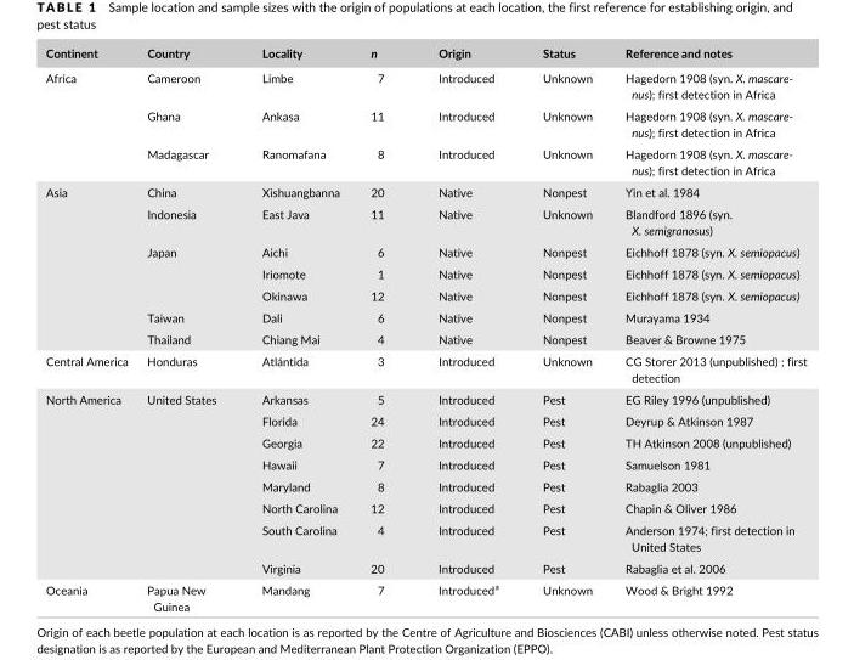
<table><thead><tr><td>Continent</td><td>Country</td><td>Locality</td><td>n</td><td>Origin</td><td>Status</td><td>Reference and notes</td></tr></thead><tbody><tr><td rowspan="3">Africa</td><td>Cameroon</td><td>Limbe</td><td>7</td><td>Introduced</td><td>Unknown</td><td>Hagedorn 1908 (syn. X. mascare- nus); first detection in Africa</td></tr><tr><td>Ghana</td><td>Ankasa</td><td>11</td><td>Introduced</td><td>Unknown</td><td>Hagedorn 1908 (syn. X. mascare- nus); first detection in Africa</td></tr><tr><td>Madagascar</td><td>Ranomafana</td><td>8</td><td>Introduced</td><td>Unknown</td><td>Hagedorn 1908 (syn. X. mascare- nus); first detection in Africa</td></tr><tr><td rowspan="7">Asia</td><td>China</td><td>Xishuangbanna</td><td>20</td><td>Native</td><td>Nonpest</td><td>Yin et al. 1984</td></tr><tr><td>Indonesia</td><td>East Java</td><td>11</td><td>Native</td><td>Unknown</td><td>Blandford 1896 (syn. X. semigranosus)</td></tr><tr><td rowspan="3">Japan</td><td>Aichi</td><td>6</td><td>Native</td><td>Nonpest</td><td>Eichhoff 1878 (syn. X. semiopacus)</td></tr><tr><td>Iriomote</td><td>1</td><td>Native</td><td>Nonpest</td><td>Eichhoff 1878 (syn. X. semiopacus)</td></tr><tr><td>Okinawa</td><td>12</td><td>Native</td><td>Nonpest</td><td>Eichhoff 1878 (syn. X. semiopacus)</td></tr><tr><td>Taiwan</td><td>Dali</td><td>6</td><td>Native</td><td>Nonpest</td><td>Murayama 1934</td></tr><tr><td>Thailand</td><td>Chiang Mai</td><td>4</td><td>Native</td><td>Nonpest</td><td>Beaver &amp; Browne 1975</td></tr><tr><td>Central America</td><td>Honduras</td><td>Atlántida</td><td>3</td><td>Introduced</td><td>Unknown</td><td>CG Storer 2013 (unpublished) ; first detection</td></tr><tr><td rowspan="8">North America</td><td rowspan="8">United States</td><td>Arkansas</td><td>5</td><td>Introduced</td><td>Pest</td><td>EG Riley 1996 (unpublished)</td></tr><tr><td>Florida</td><td>24</td><td>Introduced</td><td>Pest</td><td>Deyrup &amp; Atkinson 1987</td></tr><tr><td>Georgia</td><td>22</td><td>Introduced</td><td>Pest</td><td>TH Atkinson 2008 (unpublished)</td></tr><tr><td>Hawaii</td><td>7</td><td>Introduced</td><td>Pest</td><td>Samuelson 1981</td></tr><tr><td>Maryland</td><td>8</td><td>Introduced</td><td>Pest</td><td>Rabaglia 2003</td></tr><tr><td>North Carolina</td><td>12</td><td>Introduced</td><td>Pest</td><td>Chapin &amp; Oliver 1986</td></tr><tr><td>South Carolina</td><td>4</td><td>Introduced</td><td>Pest</td><td>Anderson 1974; first detection in United States</td></tr><tr><td>Virginia</td><td>20</td><td>Introduced</td><td>Pest</td><td>Rabaglia et al. <sup>2006</sup></td></tr><tr><td>Oceania</td><td>Papua New Guinea</td><td>Mandang</td><td>7</td><td>Introduced<sup>a</sup></td><td>Unknown</td><td>Wood &amp; Bright 1992</td></tr></tbody></table>